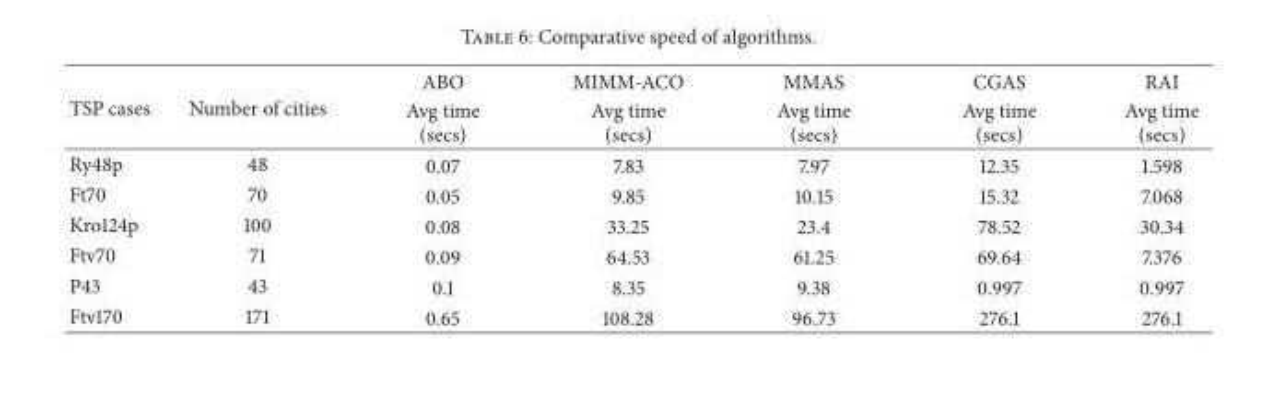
<table><thead><tr><td rowspan="2">TSP cases</td><td rowspan="2">Number of cities</td><td rowspan="2">ABO Avg time (secs)</td><td rowspan="2">MIMM-ACO Avg time (secs)</td><td rowspan="2">MMAS Avg time (secs)</td><td rowspan="2">CGAS Avg time (secs)</td><td rowspan="2">RAI Avg time (secs)</td></tr><tr></tr></thead><tbody><tr><td>Ry48p</td><td>48</td><td>0.07</td><td>7.83</td><td>7.97</td><td>12.35</td><td>1.598</td></tr><tr><td>Ft70</td><td>70</td><td>0.05</td><td>9.85</td><td>10.15</td><td>15.32</td><td>7.068</td></tr><tr><td>Kro124p</td><td>100</td><td>0.08</td><td>33.25</td><td>23.4</td><td>78.52</td><td>30.34</td></tr><tr><td>Ftv70</td><td>71</td><td>0.09</td><td>64.53</td><td>61.25</td><td>69.64</td><td>7.376</td></tr><tr><td>P43</td><td>43</td><td>0.1</td><td>8.35</td><td>9.38</td><td>0.997</td><td>0.997</td></tr><tr><td>Ftv170</td><td>171</td><td>0.65</td><td>108.28</td><td>96.73</td><td>276.1</td><td>276.1</td></tr></tbody></table>